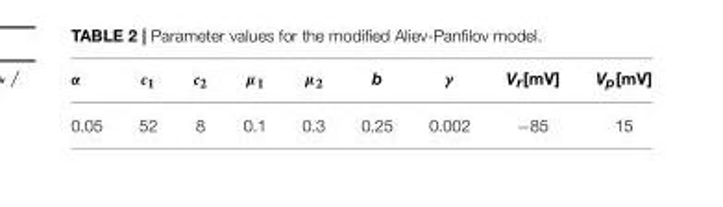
<table><thead><tr><td>α</td><td>c<sub>1</sub></td><td>c<sub>2</sub></td><td>µ<sub>1</sub></td><td>µ<sub>2</sub></td><td>b</td><td>γ</td><td>V<sub>r</sub>[mV]</td><td>V<sub>p</sub>[mV]</td></tr></thead><tbody><tr><td>0.05</td><td>52</td><td>8</td><td>0.1</td><td>0.3</td><td>0.25</td><td>0.002</td><td>−85</td><td>15</td></tr></tbody></table>